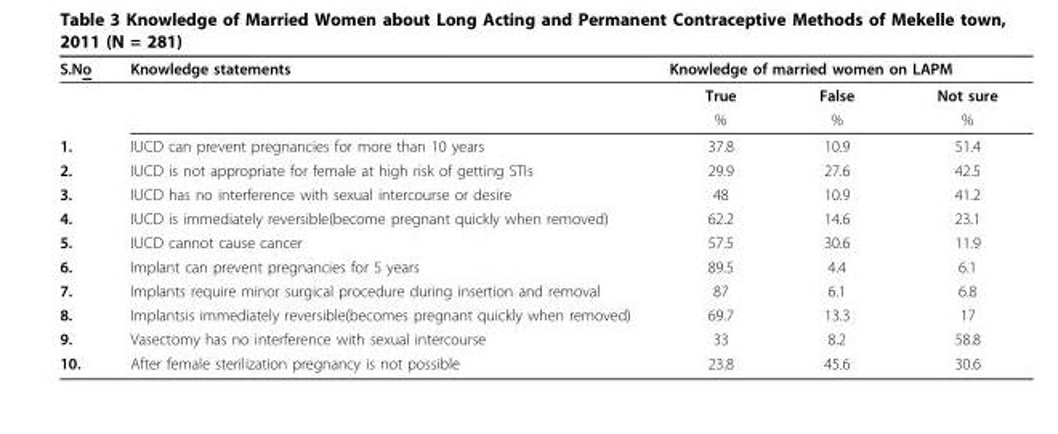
<table><thead><tr><td rowspan="2">S.No</td><td rowspan="2">Knowledge statements</td><td colspan="3">Knowledge of married women on LAPM</td></tr><tr><td>True</td><td>False</td><td>Not sure</td></tr></thead><tbody><tr><td></td><td></td><td>%</td><td>%</td><td>%</td></tr><tr><td>1.</td><td>IUCD can prevent pregnancies for more than 10 years</td><td>37.8</td><td>10.9</td><td>51.4</td></tr><tr><td>2.</td><td>IUCD is not appropriate for female at high risk of getting STIs</td><td>29.9</td><td>27.6</td><td>42.5</td></tr><tr><td>3.</td><td>IUCD has no interference with sexual intercourse or desire</td><td>48</td><td>10.9</td><td>41.2</td></tr><tr><td>4.</td><td>IUCD is immediately reversible(become pregnant quickly when removed)</td><td>62.2</td><td>14.6</td><td>23.1</td></tr><tr><td>5.</td><td>IUCD cannot cause cancer</td><td>57.5</td><td>30.6</td><td>11.9</td></tr><tr><td>6.</td><td>Implant can prevent pregnancies for 5 years</td><td>89.5</td><td>4.4</td><td>6.1</td></tr><tr><td>7.</td><td>Implants require minor surgical procedure during insertion and removal</td><td>87</td><td>6.1</td><td>6.8</td></tr><tr><td>8.</td><td>Implantsis immediately reversible(becomes pregnant quickly when removed)</td><td>69.7</td><td>13.3</td><td>17</td></tr><tr><td>9.</td><td>Vasectomy has no interference with sexual intercourse</td><td>33</td><td>8.2</td><td>58.8</td></tr><tr><td>10.</td><td>After female sterilization pregnancy is not possible</td><td>23.8</td><td>45.6</td><td>30.6</td></tr></tbody></table>